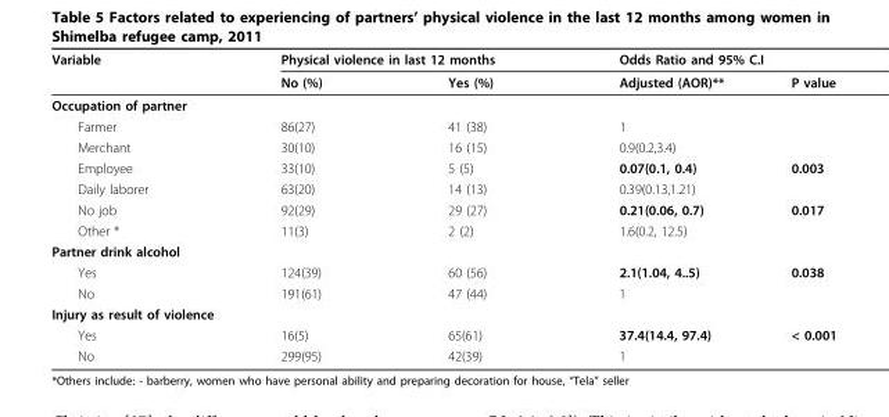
<table><thead><tr><td rowspan="2">Variable</td><td colspan="2">Physical violence in last 12 months</td><td colspan="2">Odds Ratio and 95% C.I</td></tr><tr><td>No (%)</td><td>Yes (%)</td><td>Adjusted (AOR)**</td><td>P value</td></tr></thead><tbody><tr><td colspan="5">Occupation of partner</td></tr><tr><td>Farmer</td><td>86(27)</td><td>41 (38)</td><td>1</td><td></td></tr><tr><td>Merchant</td><td>30(10)</td><td>16 (15)</td><td>0.9(0.2,3.4)</td><td></td></tr><tr><td>Employee</td><td>33(10)</td><td>5 (5)</td><td>0.07(0.1, 0.4)</td><td>0.003</td></tr><tr><td>Daily laborer</td><td>63(20)</td><td>14 (13)</td><td>0.39(0.13,1.21)</td><td></td></tr><tr><td>No job</td><td>92(29)</td><td>29 (27)</td><td>0.21(0.06, 0.7)</td><td>0.017</td></tr><tr><td>Other *</td><td>11(3)</td><td>2 (2)</td><td>1.6(0.2, 12.5)</td><td></td></tr><tr><td colspan="5">Partner drink alcohol</td></tr><tr><td>Yes</td><td>124(39)</td><td>60 (56)</td><td>2.1(1.04, 4..5)</td><td>0.038</td></tr><tr><td>No</td><td>191(61)</td><td>47 (44)</td><td>1</td><td></td></tr><tr><td colspan="5">Injury as result of violence</td></tr><tr><td>Yes</td><td>16(5)</td><td>65(61)</td><td>37.4(14.4, 97.4)</td><td>&lt; 0.001</td></tr><tr><td>No</td><td>299(95)</td><td>42(39)</td><td>1</td><td></td></tr></tbody></table>